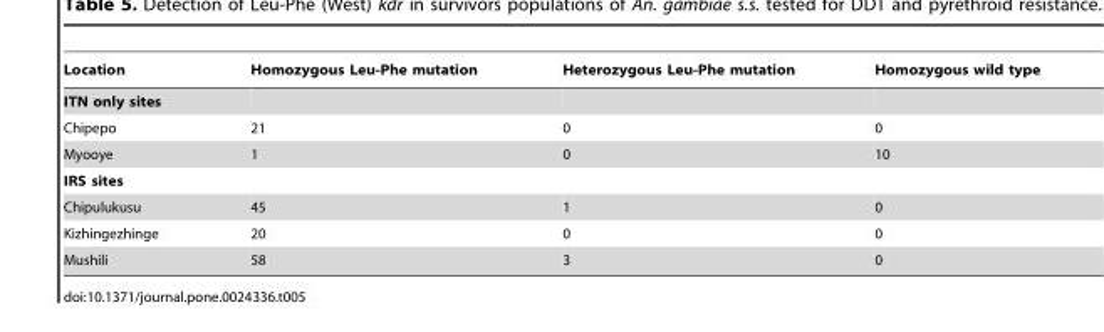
<table><thead><tr><td>Location</td><td>Homozygous Leu-Phe mutation</td><td>Heterozygous Leu-Phe mutation</td><td>Homozygous wild type</td></tr></thead><tbody><tr><td colspan="4">ITN only sites</td></tr><tr><td>Chipepo</td><td>21</td><td>0</td><td>0</td></tr><tr><td>Myooye</td><td>1</td><td>0</td><td>10</td></tr><tr><td colspan="4">IRS sites</td></tr><tr><td>Chipulukusu</td><td>45</td><td>1</td><td>0</td></tr><tr><td>Kizhingezhinge</td><td>20</td><td>0</td><td>0</td></tr><tr><td>Mushili</td><td>58</td><td>3</td><td>0</td></tr></tbody></table>